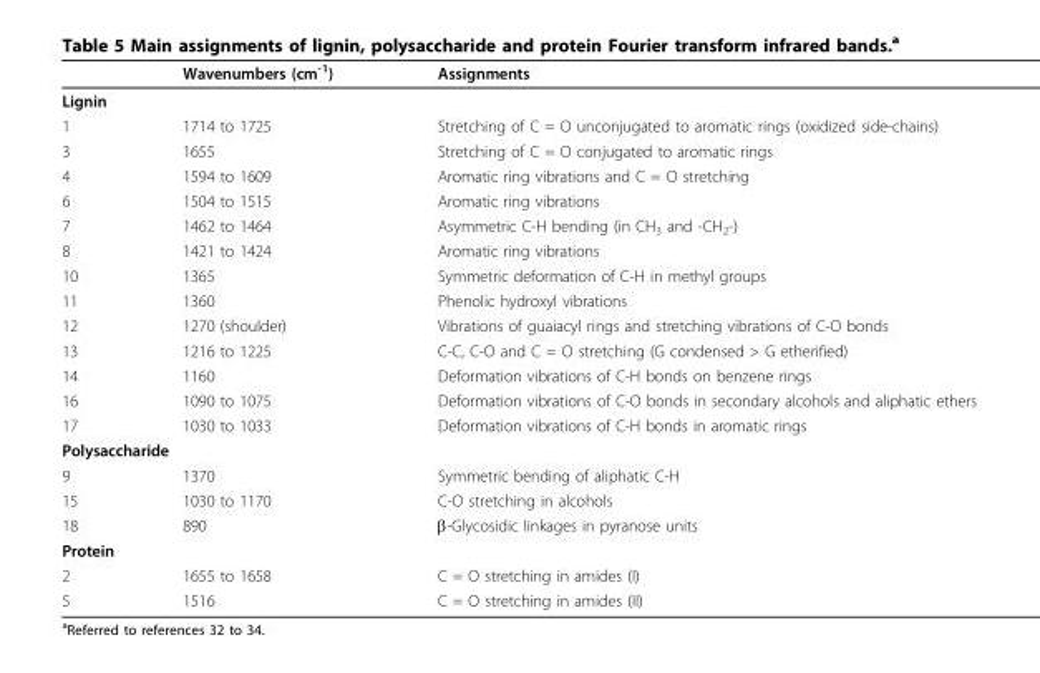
<table><thead><tr><td></td><td>Wavenumbers (cm<sup>-1</sup>)</td><td>Assignments</td></tr></thead><tbody><tr><td colspan="3">Lignin</td></tr><tr><td>1</td><td>1714 to 1725</td><td>Stretching of C = O unconjugated to aromatic rings (oxidized side-chains)</td></tr><tr><td>3</td><td>1655</td><td>Stretching of C = O conjugated to aromatic rings</td></tr><tr><td>4</td><td>1594 to 1609</td><td>Aromatic ring vibrations and C = O stretching</td></tr><tr><td>6</td><td>1504 to 1515</td><td>Aromatic ring vibrations</td></tr><tr><td>7</td><td>1462 to 1464</td><td>Asymmetric C-H bending (in CH<sub>3</sub> and -CH<sub>2</sub>-)</td></tr><tr><td>8</td><td>1421 to 1424</td><td>Aromatic ring vibrations</td></tr><tr><td>10</td><td>1365</td><td>Symmetric deformation of C-H in methyl groups</td></tr><tr><td>11</td><td>1360</td><td>Phenolic hydroxyl vibrations</td></tr><tr><td>12</td><td>1270 (shoulder)</td><td>Vibrations of guaiacyl rings and stretching vibrations of C-O bonds</td></tr><tr><td>13</td><td>1216 to 1225</td><td>C-C, C-O and C = O stretching (G condensed &gt; G etherified)</td></tr><tr><td>14</td><td>1160</td><td>Deformation vibrations of C-H bonds on benzene rings</td></tr><tr><td>16</td><td>1090 to 1075</td><td>Deformation vibrations of C-O bonds in secondary alcohols and aliphatic ethers</td></tr><tr><td>17</td><td>1030 to 1033</td><td>Deformation vibrations of C-H bonds in aromatic rings</td></tr><tr><td colspan="3">Polysaccharide</td></tr><tr><td>9</td><td>1370</td><td>Symmetric bending of aliphatic C-H</td></tr><tr><td>15</td><td>1030 to 1170</td><td>C-O stretching in alcohols</td></tr><tr><td>18</td><td>890</td><td>β-Glycosidic linkages in pyranose units</td></tr><tr><td colspan="3">Protein</td></tr><tr><td>2</td><td>1655 to 1658</td><td>C = O stretching in amides (I)</td></tr><tr><td>5</td><td>1516</td><td>C = O stretching in amides (II)</td></tr></tbody></table>